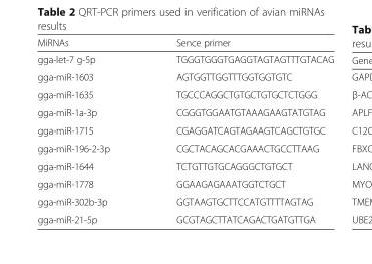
<table><thead><tr><td>MiRNAs</td><td>Sence primer</td></tr></thead><tbody><tr><td>gga-let-7 g-5p</td><td>TGGGTGGGTGAGGTAGTAGTTTGTACAG</td></tr><tr><td>gga-miR-1603</td><td>AGTGGTTGGTTTGGTGGTGTC</td></tr><tr><td>gga-miR-1635</td><td>TGCCCAGGCTGTGCTGTGCTCTGGG</td></tr><tr><td>gga-miR-1a-3p</td><td>CGGGTGGAATGTAAAGAAGTATGTAG</td></tr><tr><td>gga-miR-1715</td><td>CGAGGATCAGTAGAAGTCAGCTGTGC</td></tr><tr><td>gga-miR-196-2-3p</td><td>CGCTACAGCACGAAACTGCCTTAAG</td></tr><tr><td>gga-miR-1644</td><td>TCTGTTGTGCAGGGCTGTGCT</td></tr><tr><td>gga-miR-1778</td><td>GGAAGAGAAATGGTCTGCT</td></tr><tr><td>gga-miR-302b-3p</td><td>GGTAAGTGCTTCCATGTTTTAGTAG</td></tr><tr><td>gga-miR-21-5p</td><td>GCGTAGCTTATCAGACTGATGTTGA</td></tr></tbody></table>